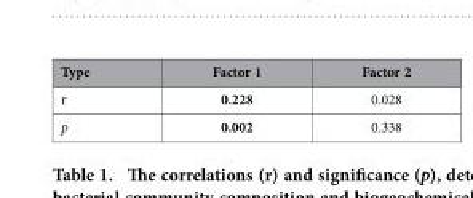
<table><thead><tr><td>Type</td><td>Factor 1</td><td>Factor 2</td></tr></thead><tbody><tr><td>r</td><td>0.228</td><td>0.028</td></tr><tr><td>p</td><td>0.002</td><td>0.338</td></tr></tbody></table>